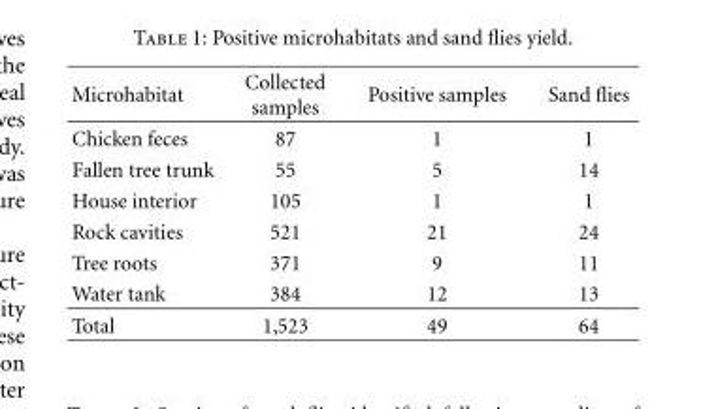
<table><thead><tr><td>Microhabitat</td><td>Collected samples</td><td>Positive samples</td><td>Sand flies</td></tr></thead><tbody><tr><td>Chicken feces</td><td>87</td><td>1</td><td>1</td></tr><tr><td>Fallen tree trunk</td><td>55</td><td>5</td><td>14</td></tr><tr><td>House interior</td><td>105</td><td>1</td><td>1</td></tr><tr><td>Rock cavities</td><td>521</td><td>21</td><td>24</td></tr><tr><td>Tree roots</td><td>371</td><td>9</td><td>11</td></tr><tr><td>Water tank</td><td>384</td><td>12</td><td>13</td></tr><tr><td>Total</td><td>1,523</td><td>49</td><td>64</td></tr></tbody></table>